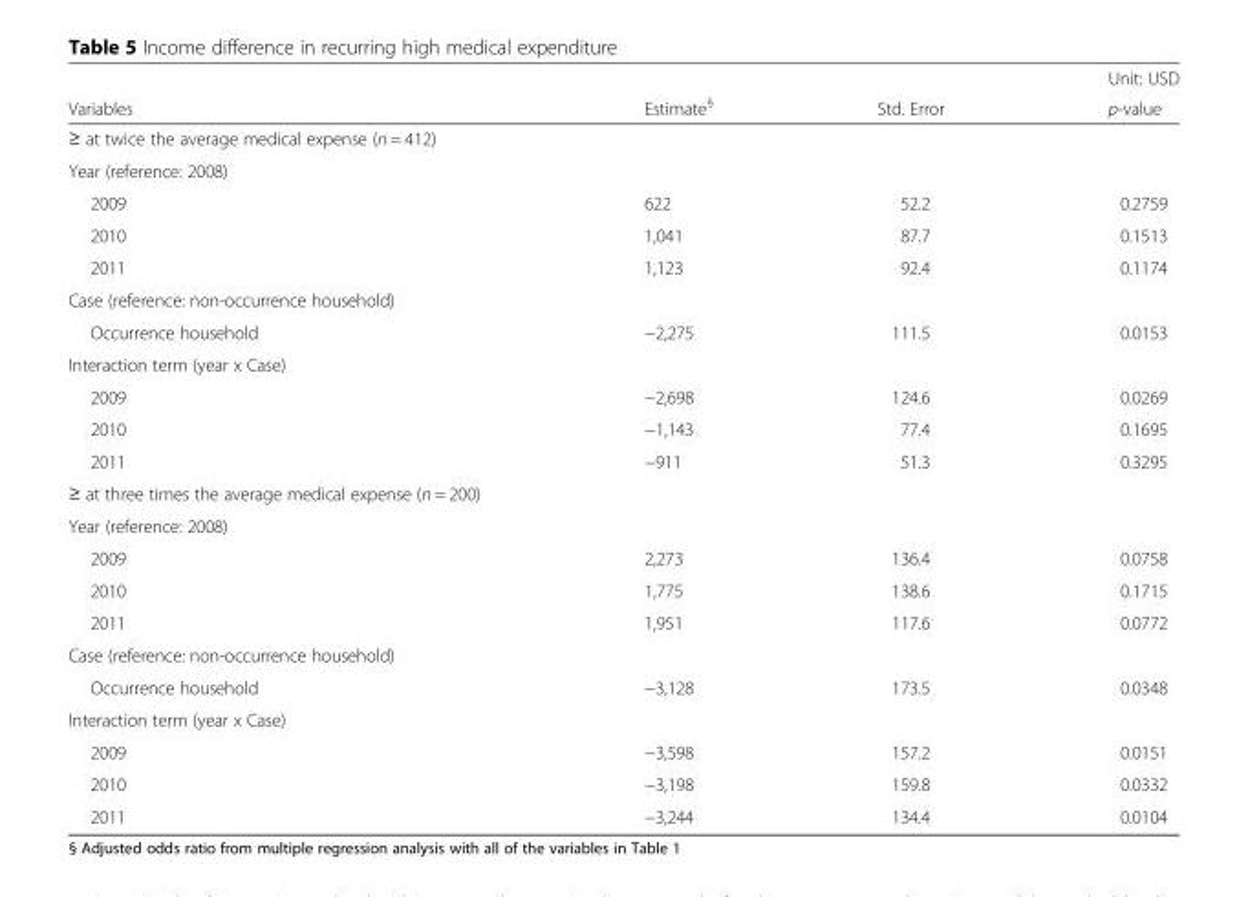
<table><thead><tr><td rowspan="2">Variables</td><td rowspan="2">Estimate<sup>§</sup></td><td rowspan="2">Std. Error</td><td rowspan="2">Unit: USD p-value</td></tr><tr></tr></thead><tbody><tr><td colspan="4">≥ at twice the average medical expense (n = 412)</td></tr><tr><td colspan="4">Year (reference: 2008)</td></tr><tr><td>2009</td><td>622</td><td>52.2</td><td>0.2759</td></tr><tr><td>2010</td><td>1,041</td><td>87.7</td><td>0.1513</td></tr><tr><td>2011</td><td>1,123</td><td>92.4</td><td>0.1174</td></tr><tr><td colspan="4">Case (reference: non-occurrence household)</td></tr><tr><td>Occurrence household</td><td>−2,275</td><td>111.5</td><td>0.0153</td></tr><tr><td colspan="4">Interaction term (year x Case)</td></tr><tr><td>2009</td><td>−2,698</td><td>124.6</td><td>0.0269</td></tr><tr><td>2010</td><td>−1,143</td><td>77.4</td><td>0.1695</td></tr><tr><td>2011</td><td>−911</td><td>51.3</td><td>0.3295</td></tr><tr><td colspan="4">≥ at three times the average medical expense (n = 200)</td></tr><tr><td colspan="4">Year (reference: 2008)</td></tr><tr><td>2009</td><td>2,273</td><td>136.4</td><td>0.0758</td></tr><tr><td>2010</td><td>1,775</td><td>138.6</td><td>0.1715</td></tr><tr><td>2011</td><td>1,951</td><td>117.6</td><td>0.0772</td></tr><tr><td colspan="4">Case (reference: non-occurrence household)</td></tr><tr><td>Occurrence household</td><td>−3,128</td><td>173.5</td><td>0.0348</td></tr><tr><td colspan="4">Interaction term (year x Case)</td></tr><tr><td>2009</td><td>−3,598</td><td>157.2</td><td>0.0151</td></tr><tr><td>2010</td><td>−3,198</td><td>159.8</td><td>0.0332</td></tr><tr><td>2011</td><td>−3,244</td><td>134.4</td><td>0.0104</td></tr></tbody></table>